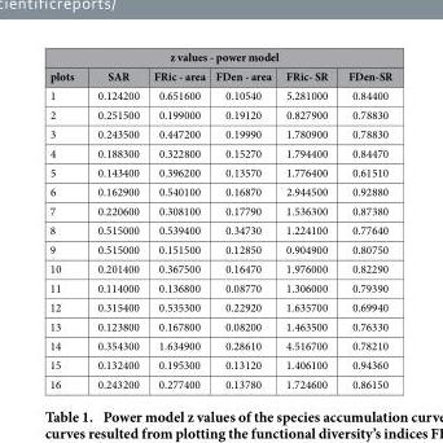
<table><thead><tr><td colspan="6">z values - power model</td></tr><tr><td>plots</td><td>SAR</td><td>FRic - area</td><td>FDen - area</td><td>FRic- SR</td><td>FDen-SR</td></tr></thead><tbody><tr><td>1</td><td>0.124200</td><td>0.651600</td><td>0.10540</td><td>5.281000</td><td>0.84400</td></tr><tr><td>2</td><td>0.251500</td><td>0.199000</td><td>0.19120</td><td>0.827900</td><td>0.78830</td></tr><tr><td>3</td><td>0.243500</td><td>0.447200</td><td>0.19990</td><td>1.780900</td><td>0.78830</td></tr><tr><td>4</td><td>0.188300</td><td>0.322800</td><td>0.15270</td><td>1.794400</td><td>0.84470</td></tr><tr><td>5</td><td>0.143400</td><td>0.396200</td><td>0.13570</td><td>1.776400</td><td>0.61510</td></tr><tr><td>6</td><td>0.162900</td><td>0.540100</td><td>0.16870</td><td>2.944500</td><td>0.92880</td></tr><tr><td>7</td><td>0.220600</td><td>0.308100</td><td>0.17790</td><td>1.536300</td><td>0.87380</td></tr><tr><td>8</td><td>0.515000</td><td>0.539400</td><td>0.34730</td><td>1.224100</td><td>0.77640</td></tr><tr><td>9</td><td>0.515000</td><td>0.151500</td><td>0.12850</td><td>0.904900</td><td>0.80750</td></tr><tr><td>10</td><td>0.201400</td><td>0.367500</td><td>0.16470</td><td>1.976000</td><td>0.82290</td></tr><tr><td>11</td><td>0.114000</td><td>0.136800</td><td>0.08770</td><td>1.306000</td><td>0.79390</td></tr><tr><td>12</td><td>0.315400</td><td>0.535300</td><td>0.22920</td><td>1.635700</td><td>0.69940</td></tr><tr><td>13</td><td>0.123800</td><td>0.167800</td><td>0.08200</td><td>1.463500</td><td>0.76330</td></tr><tr><td>14</td><td>0.354300</td><td>1.634900</td><td>0.28610</td><td>4.516700</td><td>0.78210</td></tr><tr><td>15</td><td>0.132400</td><td>0.195300</td><td>0.13120</td><td>1.406100</td><td>0.94360</td></tr><tr><td>16</td><td>0.243200</td><td>0.277400</td><td>0.13780</td><td>1.724600</td><td>0.86150</td></tr></tbody></table>